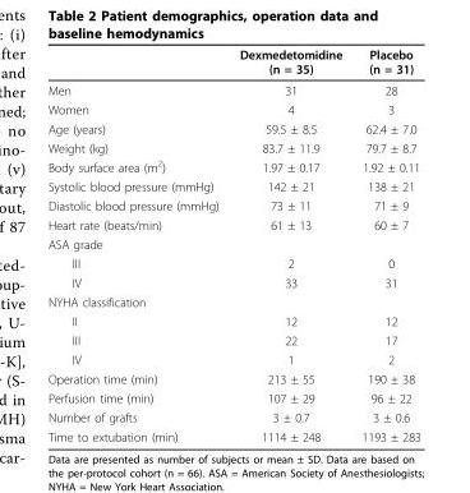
<table><thead><tr><td></td><td>Dexmedetomidine (n = 35)</td><td>Placebo (n = 31)</td></tr></thead><tbody><tr><td>Men</td><td>31</td><td>28</td></tr><tr><td>Women</td><td>4</td><td>3</td></tr><tr><td>Age (years)</td><td>59.5 ± 8.5</td><td>62.4 ± 7.0</td></tr><tr><td>Weight (kg)</td><td>83.7 ± 11.9</td><td>79.7 ± 8.7</td></tr><tr><td>Body surface area (m<sup>2</sup>)</td><td>1.97 ± 0.17</td><td>1.92 ± 0.11</td></tr><tr><td>Systolic blood pressure (mmHg)</td><td>142 ± 21</td><td>138 ± 21</td></tr><tr><td>Diastolic blood pressure (mmHg)</td><td>73 ± 11</td><td>71 ± 9</td></tr><tr><td>Heart rate (beats/min)</td><td>61 ± 13</td><td>60 ± 7</td></tr><tr><td colspan="3">ASA grade</td></tr><tr><td>III</td><td>2</td><td>0</td></tr><tr><td>IV</td><td>33</td><td>31</td></tr><tr><td colspan="3">NYHA classification</td></tr><tr><td>II</td><td>12</td><td>12</td></tr><tr><td>III</td><td>22</td><td>17</td></tr><tr><td>IV</td><td>1</td><td>2</td></tr><tr><td>Operation time (min)</td><td>213 ± 55</td><td>190 ± 38</td></tr><tr><td>Perfusion time (min)</td><td>107 ± 29</td><td>96 ± 22</td></tr><tr><td>Number of grafts</td><td>3 ± 0.7</td><td>3 ± 0.6</td></tr><tr><td>Time to extubation (min)</td><td>1114 ± 248</td><td>1193 ± 283</td></tr></tbody></table>